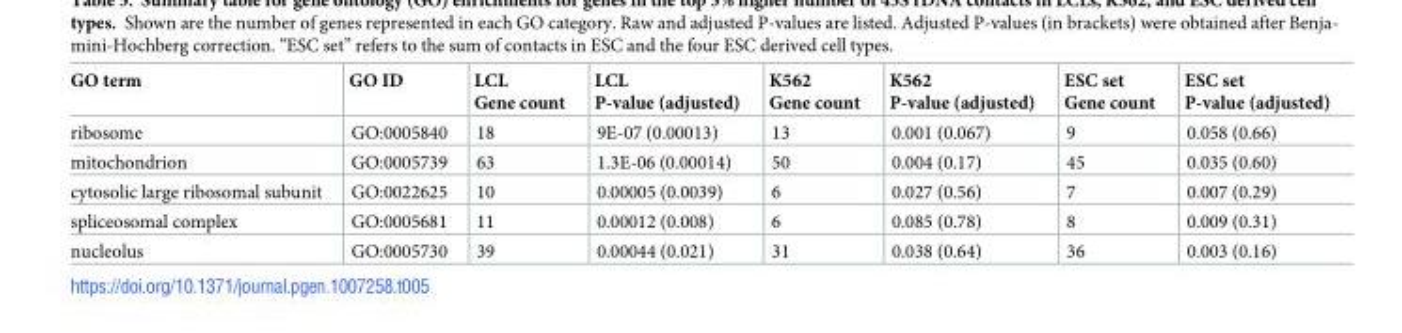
<table><thead><tr><td>GO term</td><td>GO ID</td><td>LCL Gene count</td><td>LCL P-value (adjusted)</td><td>K562 Gene count</td><td>K562 P-value (adjusted)</td><td>ESC set Gene count</td><td>ESC set P-value (adjusted)</td></tr></thead><tbody><tr><td>ribosome</td><td>GO:0005840</td><td>18</td><td>9E-07 (0.00013)</td><td>13</td><td>0.001 (0.067)</td><td>9</td><td>0.058 (0.66)</td></tr><tr><td>mitochondrion</td><td>GO:0005739</td><td>63</td><td>1.3E-06 (0.00014)</td><td>50</td><td>0.004 (0.17)</td><td>45</td><td>0.035 (0.60)</td></tr><tr><td>cytosolic large ribosomal subunit</td><td>GO:0022625</td><td>10</td><td>0.00005 (0.0039)</td><td>6</td><td>0.027 (0.56)</td><td>7</td><td>0.007 (0.29)</td></tr><tr><td>spliceosomal complex</td><td>GO:0005681</td><td>11</td><td>0.00012 (0.008)</td><td>6</td><td>0.085 (0.78)</td><td>8</td><td>0.009 (0.31)</td></tr><tr><td>nucleolus</td><td>GO:0005730</td><td>39</td><td>0.00044 (0.021)</td><td>31</td><td>0.038 (0.64)</td><td>36</td><td>0.003 (0.16)</td></tr></tbody></table>